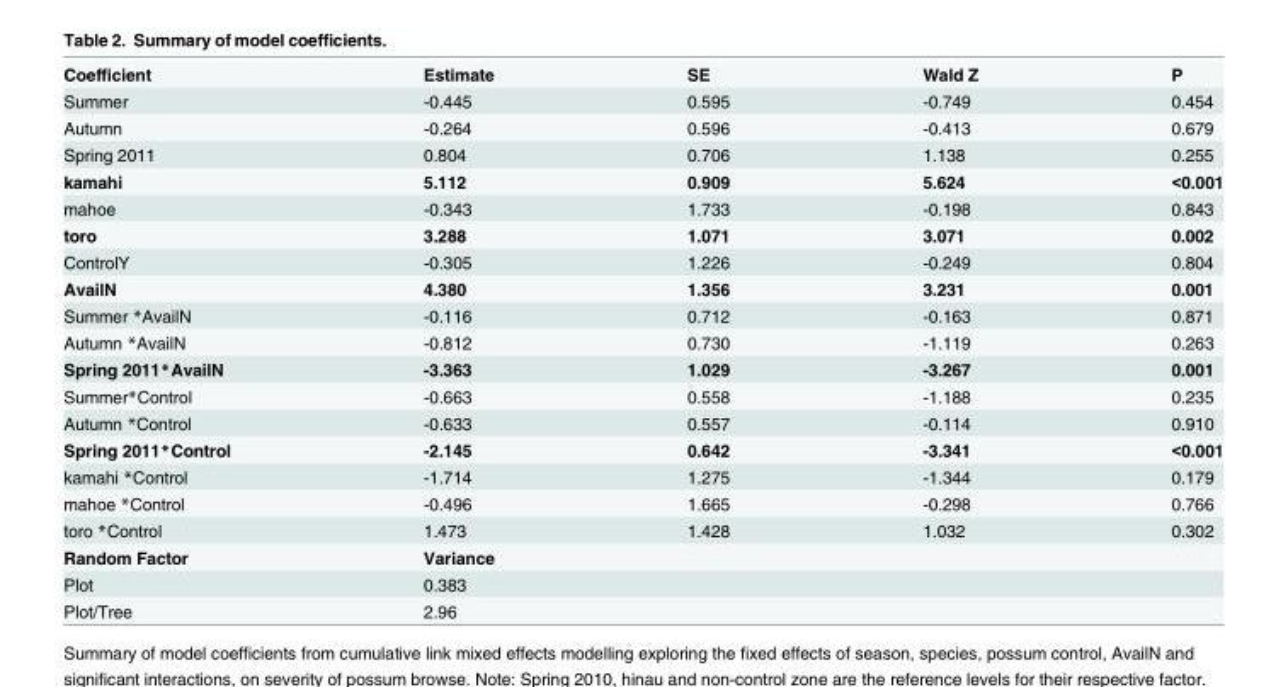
<table><tbody><tr><td>Coefficient</td><td>Estimate</td><td>SE</td><td>Wald Z</td><td>P</td></tr><tr><td>Summer</td><td>-0.445</td><td>0.595</td><td>-0.749</td><td>0.454</td></tr><tr><td>Autumn</td><td>-0.264</td><td>0.596</td><td>-0.413</td><td>0.679</td></tr><tr><td>Spring 2011</td><td>0.804</td><td>0.706</td><td>1.138</td><td>0.255</td></tr><tr><td>kamahi</td><td>5.112</td><td>0.909</td><td>5.624</td><td>&lt;0.001</td></tr><tr><td>mahoe</td><td>-0.343</td><td>1.733</td><td>-0.198</td><td>0.843</td></tr><tr><td>toro</td><td>3.288</td><td>1.071</td><td>3.071</td><td>0.002</td></tr><tr><td>ControlY</td><td>-0.305</td><td>1.226</td><td>-0.249</td><td>0.804</td></tr><tr><td>AvailN</td><td>4.380</td><td>1.356</td><td>3.231</td><td>0.001</td></tr><tr><td>Summer *AvailN</td><td>-0.116</td><td>0.712</td><td>-0.163</td><td>0.871</td></tr><tr><td>Autumn *AvailN</td><td>-0.812</td><td>0.730</td><td>-1.119</td><td>0.263</td></tr><tr><td>Spring 2011*AvailN</td><td>-3.363</td><td>1.029</td><td>-3.267</td><td>0.001</td></tr><tr><td>Summer*Control</td><td>-0.663</td><td>0.558</td><td>-1.188</td><td>0.235</td></tr><tr><td>Autumn *Control</td><td>-0.633</td><td>0.557</td><td>-0.114</td><td>0.910</td></tr><tr><td>Spring 2011*Control</td><td>-2.145</td><td>0.642</td><td>-3.341</td><td>&lt;0.001</td></tr><tr><td>kamahi *Control</td><td>-1.714</td><td>1.275</td><td>-1.344</td><td>0.179</td></tr><tr><td>mahoe *Control</td><td>-0.496</td><td>1.665</td><td>-0.298</td><td>0.766</td></tr><tr><td>toro *Control</td><td>1.473</td><td>1.428</td><td>1.032</td><td>0.302</td></tr><tr><td>Random Factor</td><td>Variance</td><td></td><td></td><td></td></tr><tr><td>Plot</td><td>0.383</td><td></td><td></td><td></td></tr><tr><td>Plot/Tree</td><td>2.96</td><td></td><td></td><td></td></tr></tbody></table>